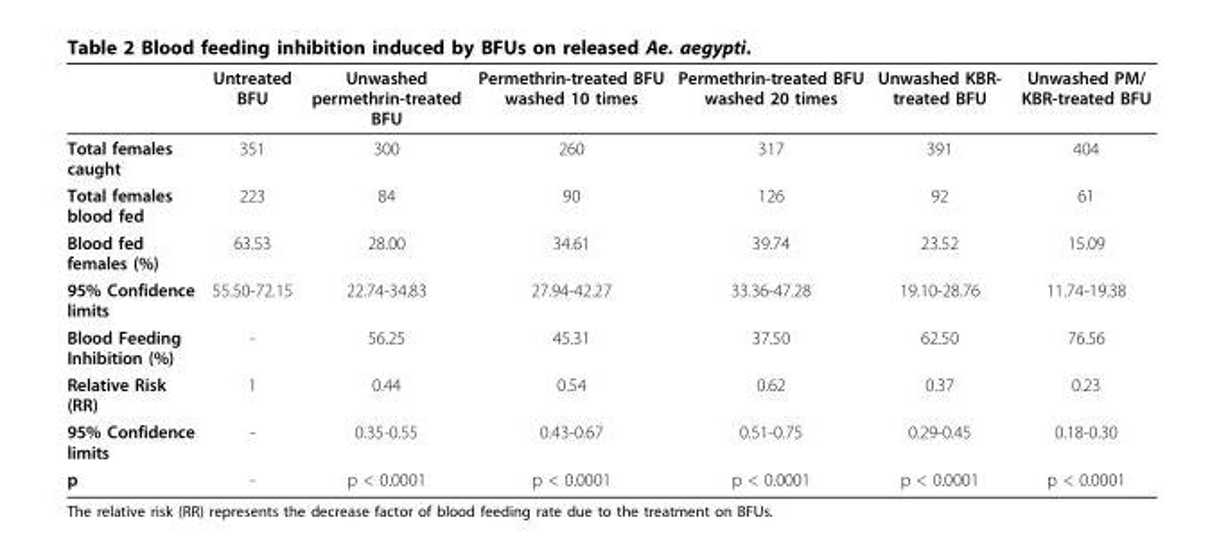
<table><thead><tr><td></td><td>Untreated BFU</td><td>Unwashed permethrin-treated BFU</td><td>Permethrin-treated BFU washed 10 times</td><td>Permethrin-treated BFU washed 20 times</td><td>Unwashed KBR- treated BFU</td><td>Unwashed PM/ KBR-treated BFU</td></tr></thead><tbody><tr><td>Total females caught</td><td>351</td><td>300</td><td>260</td><td>317</td><td>391</td><td>404</td></tr><tr><td>Total females blood fed</td><td>223</td><td>84</td><td>90</td><td>126</td><td>92</td><td>61</td></tr><tr><td>Blood fed females (%)</td><td>63.53</td><td>28.00</td><td>34.61</td><td>39.74</td><td>23.52</td><td>15.09</td></tr><tr><td>95% Confidence limits</td><td>55.50-72.15</td><td>22.74-34.83</td><td>27.94-42.27</td><td>33.36-47.28</td><td>19.10-28.76</td><td>11.74-19.38</td></tr><tr><td>Blood Feeding Inhibition (%)</td><td>-</td><td>56.25</td><td>45.31</td><td>37.50</td><td>62.50</td><td>76.56</td></tr><tr><td>Relative Risk (RR)</td><td>1</td><td>0.44</td><td>0.54</td><td>0.62</td><td>0.37</td><td>0.23</td></tr><tr><td>95% Confidence limits</td><td>-</td><td>0.35-0.55</td><td>0.43-0.67</td><td>0.51-0.75</td><td>0.29-0.45</td><td>0.18-0.30</td></tr><tr><td>p</td><td>-</td><td>p &lt; 0.0001</td><td>p &lt; 0.0001</td><td>p &lt; 0.0001</td><td>p &lt; 0.0001</td><td>p &lt; 0.0001</td></tr></tbody></table>